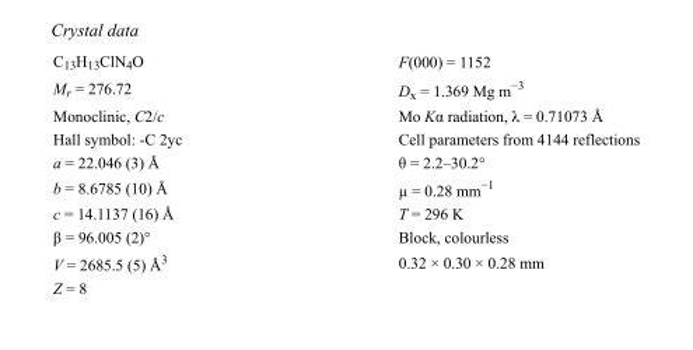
<table><tbody><tr><td>C<sub>13</sub>H<sub>13</sub>ClN<sub>4</sub>O</td><td>F(000) = 1152</td></tr><tr><td>M<sub>r</sub> = 276.72</td><td>D<sub>x</sub> = 1.369 Mg m<sup>−3</sup></td></tr><tr><td>Monoclinic, C2/c</td><td>Mo Kα radiation, λ = 0.71073 Å</td></tr><tr><td>Hall symbol: -C 2yc</td><td>Cell parameters from 4144 reflections</td></tr><tr><td>a = 22.046 (3) Å</td><td>θ = 2.2–30.2°</td></tr><tr><td>b = 8.6785 (10) Å</td><td>µ = 0.28 mm<sup>−1</sup></td></tr><tr><td>c = 14.1137 (16) Å</td><td>T = 296 K</td></tr><tr><td>β = 96.005 (2)°</td><td>Block, colourless</td></tr><tr><td>V = 2685.5 (5) Å<sup>3</sup></td><td>0.32 × 0.30 × 0.28 mm</td></tr><tr><td>Z = 8</td><td></td></tr></tbody></table>